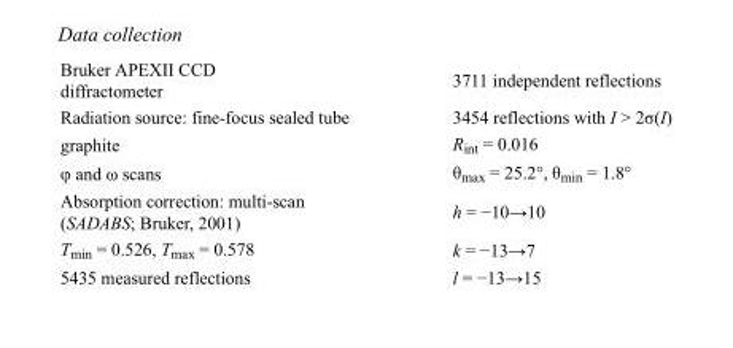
<table><tbody><tr><td>Bruker APEXII CCD diffractometer</td><td>3711 independent reflections</td></tr><tr><td>Radiation source: fine-focus sealed tube</td><td>3454 reflections with I &gt; 2σ(I)</td></tr><tr><td>graphite</td><td>R<sub>int</sub> = 0.016</td></tr><tr><td>φ and ω scans</td><td>θ<sub>max</sub> = 25.2°, θ<sub>min</sub> = 1.8°</td></tr><tr><td>Absorption correction: multi-scan (SADABS; Bruker, 2001)</td><td>h = −10→10</td></tr><tr><td>T<sub>min</sub> = 0.526, T<sub>max</sub> = 0.578</td><td>k = −13→7</td></tr><tr><td>5435 measured reflections</td><td>l = −13→15</td></tr></tbody></table>